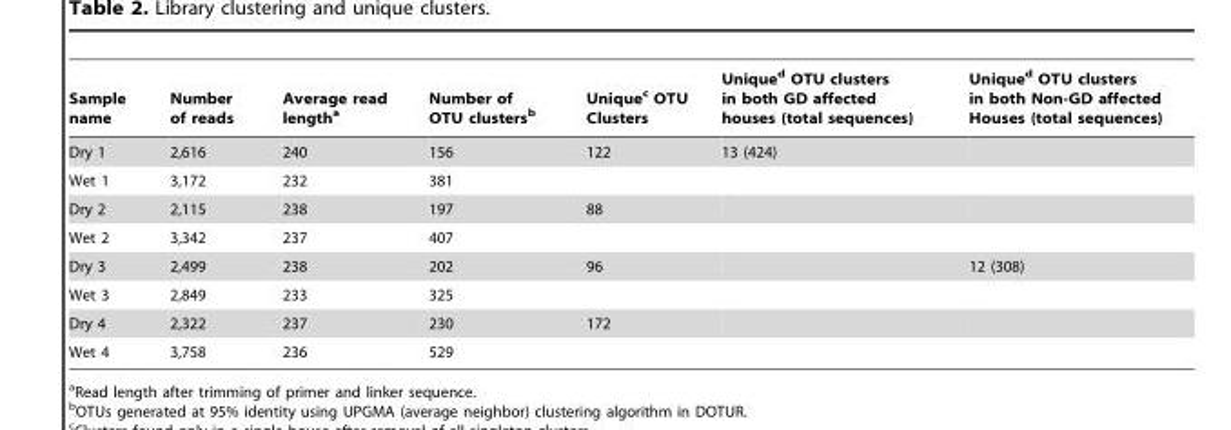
<table><thead><tr><td>Sample name</td><td>Number of reads</td><td>Average read length<sup>a</sup></td><td>Number of OTU clusters<sup>b</sup></td><td>Unique<sup>c</sup> OTU Clusters</td><td>Unique<sup>d</sup> OTU clusters in both GD affected houses (total sequences)</td><td>Unique<sup>d</sup> OTU clusters in both Non-GD affected Houses (total sequences)</td></tr></thead><tbody><tr><td>Dry 1</td><td>2,616</td><td>240</td><td>156</td><td>122</td><td>13 (424)</td><td></td></tr><tr><td>Wet 1</td><td>3,172</td><td>232</td><td>381</td><td></td><td></td><td></td></tr><tr><td>Dry 2</td><td>2,115</td><td>238</td><td>197</td><td>88</td><td></td><td></td></tr><tr><td>Wet 2</td><td>3,342</td><td>237</td><td>407</td><td></td><td></td><td></td></tr><tr><td>Dry 3</td><td>2,499</td><td>238</td><td>202</td><td>96</td><td></td><td>12 (308)</td></tr><tr><td>Wet 3</td><td>2,849</td><td>233</td><td>325</td><td></td><td></td><td></td></tr><tr><td>Dry 4</td><td>2,322</td><td>237</td><td>230</td><td>172</td><td></td><td></td></tr><tr><td>Wet 4</td><td>3,758</td><td>236</td><td>529</td><td></td><td></td><td></td></tr></tbody></table>